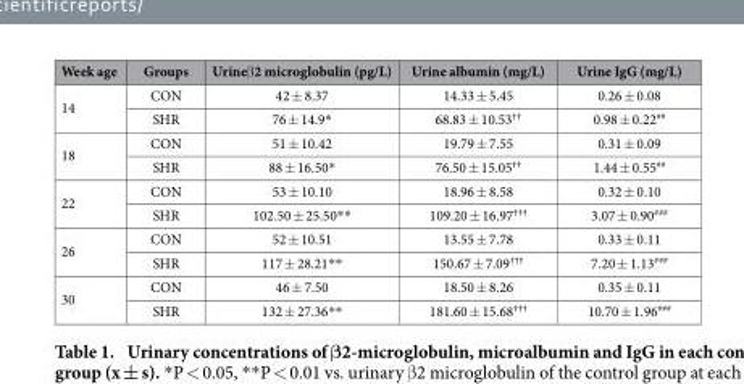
<table><thead><tr><td>Week age</td><td>Groups</td><td>Urineβ 2 microglobulin (pg/L)</td><td>Urine albumin (mg/L)</td><td>Urine IgG (mg/L)</td></tr></thead><tbody><tr><td rowspan="2">14</td><td>CON</td><td>42 ± 8.37</td><td>14.33 ± 5.45</td><td>0.26 ± 0.08</td></tr><tr><td>SHR</td><td>76 ± 14.9*</td><td>68.83 ± 10.53<sup>††</sup></td><td>0.98 ± 0.22<sup>##</sup></td></tr><tr><td rowspan="2">18</td><td>CON</td><td>51 ± 10.42</td><td>19.79 ± 7.55</td><td>0.31 ± 0.09</td></tr><tr><td>SHR</td><td>88 ± 16.50*</td><td>76.50 ± 15.05<sup>††</sup></td><td>1.44 ± 0.55<sup>##</sup></td></tr><tr><td rowspan="2">22</td><td>CON</td><td>53 ± 10.10</td><td>18.96 ± 8.58</td><td>0.32 ± 0.10</td></tr><tr><td>SHR</td><td>102.50 ± 25.50* *</td><td>109.20 ± 16.97<sup>†††</sup></td><td>3.07 ± 0.90<sup>###</sup></td></tr><tr><td rowspan="2">26</td><td>CON</td><td>52 ± 10.51</td><td>13.55 ± 7.78</td><td>0.33 ± 0.11</td></tr><tr><td>SHR</td><td>117 ± 28.21* *</td><td>150.67 ± 7.09<sup>†††</sup></td><td>7.20 ± 1.13<sup>###</sup></td></tr><tr><td rowspan="2">30</td><td>CON</td><td>46 ± 7.50</td><td>18.50 ± 8.26</td><td>0.35 ± 0.11</td></tr><tr><td>SHR</td><td>132 ± 27.36* *</td><td>181.60 ± 15.68<sup>†††</sup></td><td>10.70 ± 1.96<sup>###</sup></td></tr></tbody></table>